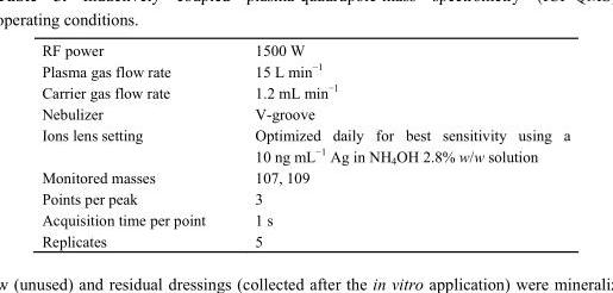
<table><tbody><tr><td>RF power</td><td>1500 W</td></tr><tr><td>Plasma gas flow rate</td><td>15 L min<sup>−1</sup></td></tr><tr><td>Carrier gas flow rate</td><td>1.2 mL min<sup>−1</sup></td></tr><tr><td>Nebulizer</td><td>V-groove</td></tr><tr><td>Ions lens setting</td><td>Optimized daily for best sensitivity using a 10 ng mL<sup>−1</sup> Ag in NH<sub>4</sub>OH 2.8% w/w solution</td></tr><tr><td>Monitored masses</td><td>107, 109</td></tr><tr><td>Points per peak</td><td>3</td></tr><tr><td>Acquisition time per point</td><td>1 s</td></tr><tr><td>Replicates</td><td>5</td></tr></tbody></table>